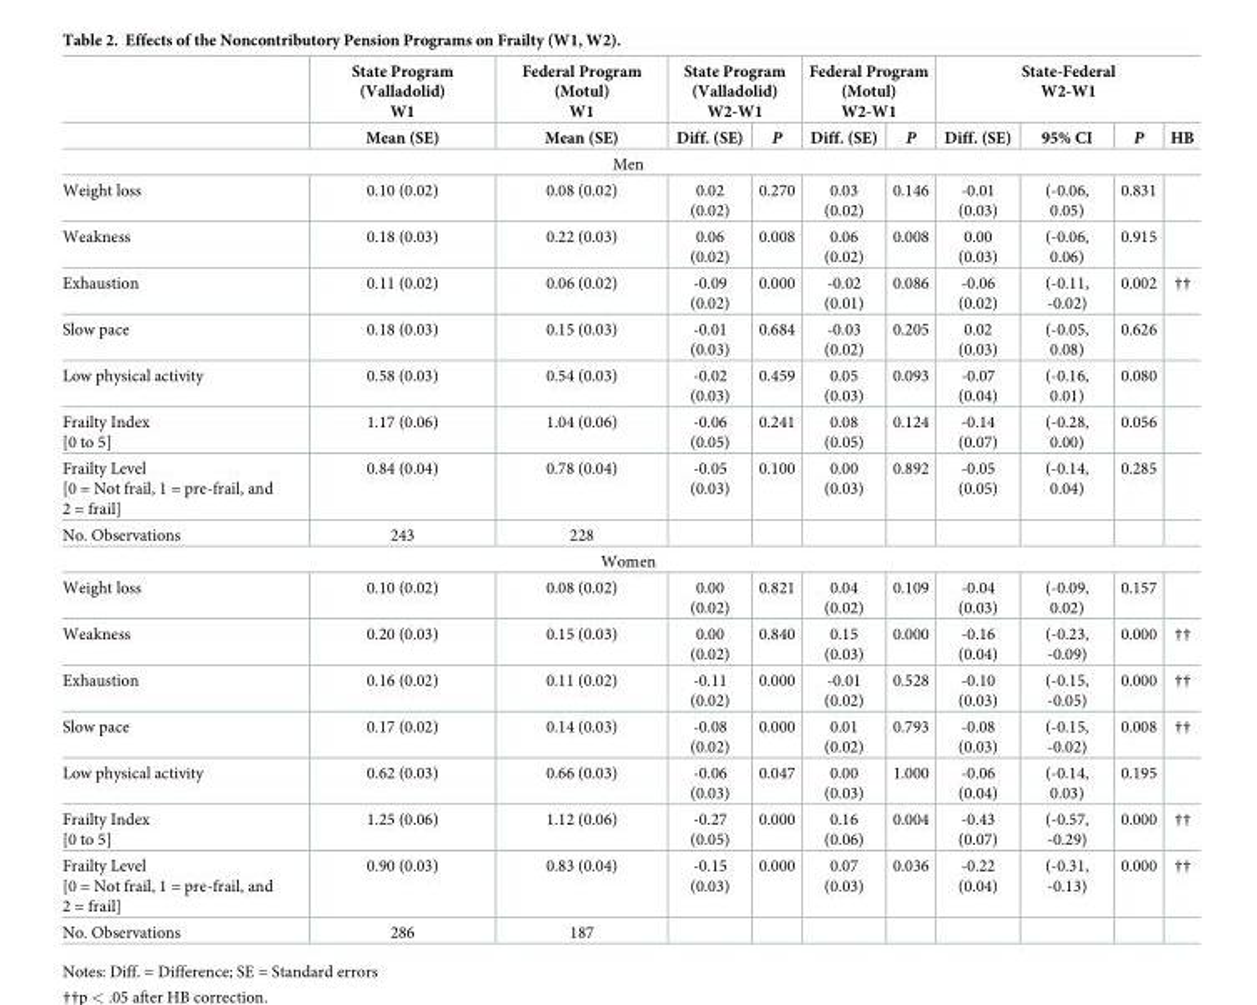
<table><thead><tr><td rowspan="2"></td><td rowspan="2">State Program (Valladolid) W1 Mean (SE)</td><td rowspan="2">Federal Program (Motul) W1 Mean (SE)</td><td colspan="2">State Program (Valladolid) W2-W1</td><td colspan="2">Federal Program (Motul) W2-W1</td><td colspan="4">State-Federal W2-W1</td></tr><tr><td>Diff. (SE)</td><td>P</td><td>Diff. (SE)</td><td>P</td><td>Diff. (SE)</td><td>95% CI</td><td>P</td><td>HB</td></tr></thead><tbody><tr><td colspan="11">Men</td></tr><tr><td>Weight loss</td><td>0.10 (0.02)</td><td>0.08 (0.02)</td><td>0.02 (0.02)</td><td>0.270</td><td>0.03 (0.02)</td><td>0.146</td><td>-0.01 (0.03)</td><td>(-0.06, 0.05)</td><td>0.831</td><td></td></tr><tr><td>Weakness</td><td>0.18 (0.03)</td><td>0.22 (0.03)</td><td>0.06 (0.02)</td><td>0.008</td><td>0.06 (0.02)</td><td>0.008</td><td>0.00 (0.03)</td><td>(-0.06, 0.06)</td><td>0.915</td><td></td></tr><tr><td>Exhaustion</td><td>0.11 (0.02)</td><td>0.06 (0.02)</td><td>-0.09 (0.02)</td><td>0.000</td><td>-0.02 (0.01)</td><td>0.086</td><td>-0.06 (0.02)</td><td>(-0.11, -0.02)</td><td>0.002</td><td>††</td></tr><tr><td>Slow pace</td><td>0.18 (0.03)</td><td>0.15 (0.03)</td><td>-0.01 (0.03)</td><td>0.684</td><td>-0.03 (0.02)</td><td>0.205</td><td>0.02 (0.03)</td><td>(-0.05, 0.08)</td><td>0.626</td><td></td></tr><tr><td>Low physical activity</td><td>0.58 (0.03)</td><td>0.54 (0.03)</td><td>-0.02 (0.03)</td><td>0.459</td><td>0.05 (0.03)</td><td>0.093</td><td>-0.07 (0.04)</td><td>(-0.16, 0.01)</td><td>0.080</td><td></td></tr><tr><td>Frailty Index [0 to 5]</td><td>1.17 (0.06)</td><td>1.04 (0.06)</td><td>-0.06 (0.05)</td><td>0.241</td><td>0.08 (0.05)</td><td>0.124</td><td>-0.14 (0.07)</td><td>(-0.28, 0.00)</td><td>0.056</td><td></td></tr><tr><td>Frailty Level [0 = Not frail, 1 = pre-frail, and 2 = frail]</td><td>0.84 (0.04)</td><td>0.78 (0.04)</td><td>-0.05 (0.03)</td><td>0.100</td><td>0.00 (0.03)</td><td>0.892</td><td>-0.05 (0.05)</td><td>(-0.14, 0.04)</td><td>0.285</td><td></td></tr><tr><td>No. Observations</td><td>243</td><td>228</td><td></td><td></td><td></td><td></td><td></td><td></td><td></td><td></td></tr><tr><td colspan="11">Women</td></tr><tr><td>Weight loss</td><td>0.10 (0.02)</td><td>0.08 (0.02)</td><td>0.00 (0.02)</td><td>0.821</td><td>0.04 (0.02)</td><td>0.109</td><td>-0.04 (0.03)</td><td>(-0.09, 0.02)</td><td>0.157</td><td></td></tr><tr><td>Weakness</td><td>0.20 (0.03)</td><td>0.15 (0.03)</td><td>0.00 (0.02)</td><td>0.840</td><td>0.15 (0.03)</td><td>0.000</td><td>-0.16 (0.04)</td><td>(-0.23, -0.09)</td><td>0.000</td><td>††</td></tr><tr><td>Exhaustion</td><td>0.16 (0.02)</td><td>0.11 (0.02)</td><td>-0.11 (0.02)</td><td>0.000</td><td>-0.01 (0.02)</td><td>0.528</td><td>-0.10 (0.03)</td><td>(-0.15, -0.05)</td><td>0.000</td><td>††</td></tr><tr><td>Slow pace</td><td>0.17 (0.02)</td><td>0.14 (0.03)</td><td>-0.08 (0.02)</td><td>0.000</td><td>0.01 (0.02)</td><td>0.793</td><td>-0.08 (0.03)</td><td>(-0.15, -0.02)</td><td>0.008</td><td>††</td></tr><tr><td>Low physical activity</td><td>0.62 (0.03)</td><td>0.66 (0.03)</td><td>-0.06 (0.03)</td><td>0.047</td><td>0.00 (0.03)</td><td>1.000</td><td>-0.06 (0.04)</td><td>(-0.14, 0.03)</td><td>0.195</td><td></td></tr><tr><td>Frailty Index [0 to 5]</td><td>1.25 (0.06)</td><td>1.12 (0.06)</td><td>-0.27 (0.05)</td><td>0.000</td><td>0.16 (0.06)</td><td>0.004</td><td>-0.43 (0.07)</td><td>(-0.57, -0.29)</td><td>0.000</td><td>††</td></tr><tr><td>Frailty Level [0 = Not frail, 1 = pre-frail, and 2 = frail]</td><td>0.90 (0.03)</td><td>0.83 (0.04)</td><td>-0.15 (0.03)</td><td>0.000</td><td>0.07 (0.03)</td><td>0.036</td><td>-0.22 (0.04)</td><td>(-0.31, -0.13)</td><td>0.000</td><td>††</td></tr><tr><td>No. Observations</td><td>286</td><td>187</td><td></td><td></td><td></td><td></td><td></td><td></td><td></td><td></td></tr></tbody></table>